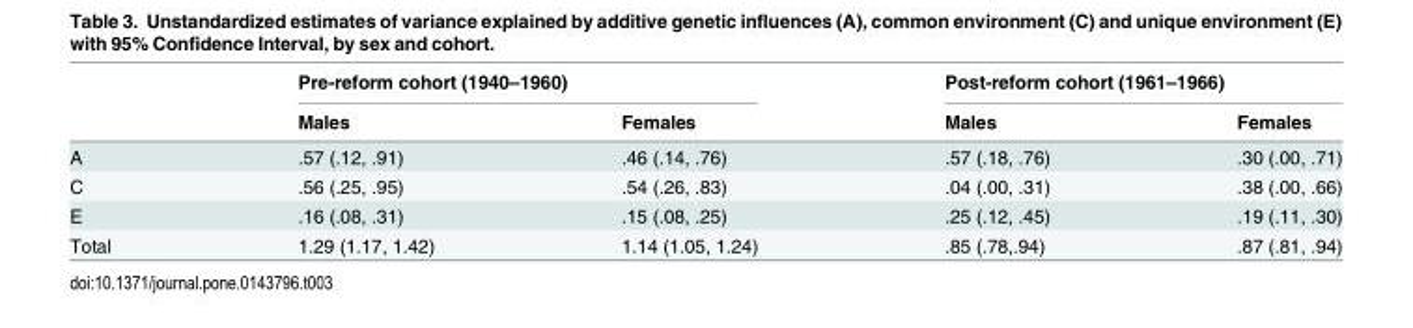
<table><thead><tr><td rowspan="2"></td><td colspan="2">Pre-reform cohort (1940–1960)</td><td colspan="2">Post-reform cohort (1961–1966)</td></tr><tr><td>Males</td><td>Females</td><td>Males</td><td>Females</td></tr></thead><tbody><tr><td>A</td><td>.57 (.12, .91)</td><td>.46 (.14, .76)</td><td>.57 (.18, .76)</td><td>.30 (.00, .71)</td></tr><tr><td>C</td><td>.56 (.25, .95)</td><td>.54 (.26, .83)</td><td>.04 (.00, .31)</td><td>.38 (.00, .66)</td></tr><tr><td>E</td><td>.16 (.08, .31)</td><td>.15 (.08, .25)</td><td>.25 (.12, .45)</td><td>.19 (.11, .30)</td></tr><tr><td>Total</td><td>1.29 (1.17, 1.42)</td><td>1.14 (1.05, 1.24)</td><td>.85 (.78,.94)</td><td>.87 (.81, .94)</td></tr></tbody></table>